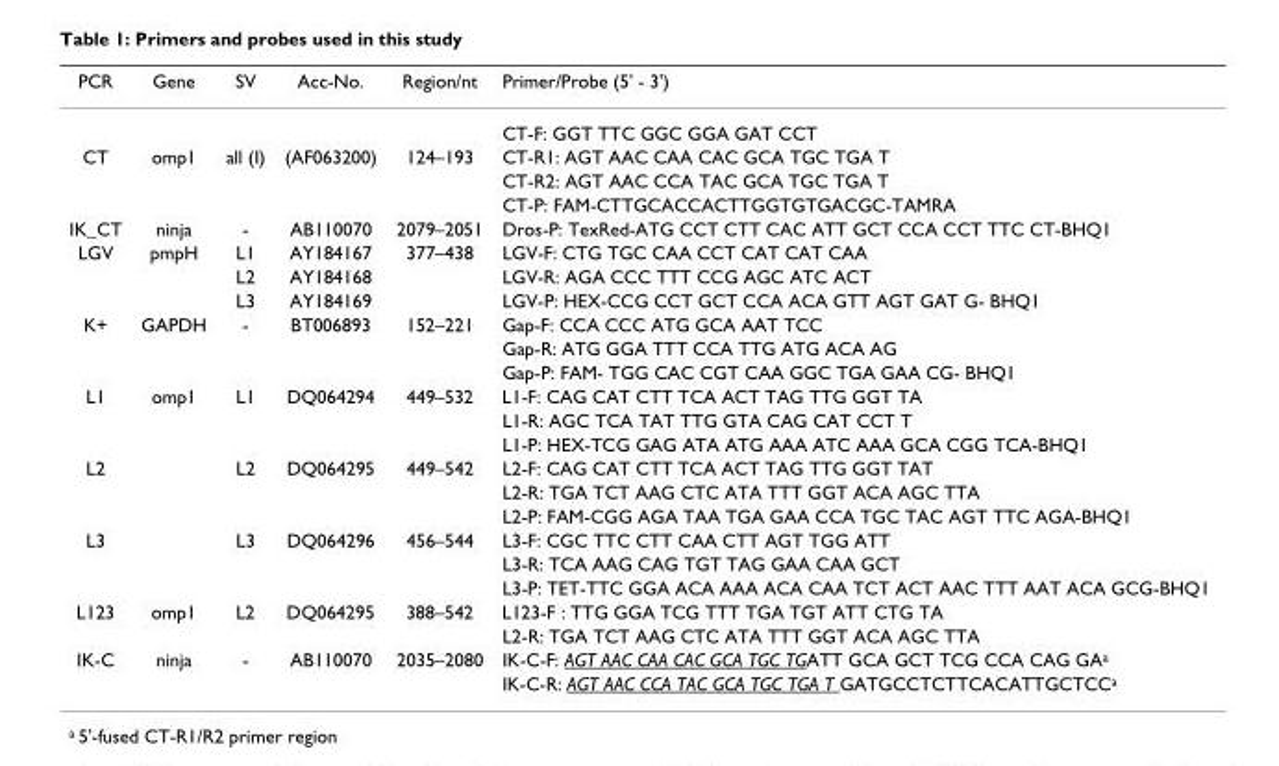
<table><thead><tr><td>PCR</td><td>Gene</td><td>SV</td><td>Acc-No.</td><td>Region/nt</td><td>Primer/Probe (5&#x27; - 3&#x27;)</td></tr></thead><tbody><tr><td></td><td></td><td></td><td></td><td></td><td>CT-F: GGT TTC GGC GGA GAT CCT</td></tr><tr><td rowspan="3">CT</td><td>omp1</td><td>all (I)</td><td>(AF063200)</td><td>124–193</td><td>CT-R1: AGT AAC CAA CAC GCA TGC TGA T</td></tr><tr><td></td><td></td><td></td><td></td><td>CT-R2: AGT AAC CCA TAC GCA TGC TGA T</td></tr><tr><td></td><td></td><td></td><td></td><td>CT-P: FAM-CTTGCACCACTTGGTGTGACGC-TAMRA</td></tr><tr><td>IK_CT</td><td>ninja</td><td>-</td><td>AB110070</td><td>2079–2051</td><td>Dros-P: TexRed-ATG CCT CTT CAC ATT GCT CCA CCT TTC CT-BHQ1</td></tr><tr><td rowspan="3">LGV</td><td>pmpH</td><td>L1</td><td>AY184167</td><td>377–438</td><td>LGV-F: CTG TGC CAA CCT CAT CAT CAA</td></tr><tr><td></td><td>L2</td><td>AY184168</td><td></td><td>LGV-R: AGA CCC TTT CCG AGC ATC ACT</td></tr><tr><td></td><td>L3</td><td>AY184169</td><td></td><td>LGV-P: HEX-CCG CCT GCT CCA ACA GTT AGT GAT G- BHQ1</td></tr><tr><td rowspan="3">K+</td><td>GAPDH</td><td>-</td><td>BT006893</td><td>152–221</td><td>Gap-F: CCA CCC ATG GCA AAT TCC</td></tr><tr><td></td><td></td><td></td><td></td><td>Gap-R: ATG GGA TTT CCA TTG ATG ACA AG</td></tr><tr><td></td><td></td><td></td><td></td><td>Gap-P: FAM- TGG CAC CGT CAA GGC TGA GAA CG- BHQ1</td></tr><tr><td rowspan="3">L1</td><td>omp1</td><td>L1</td><td>DQ064294</td><td>449–532</td><td>L1-F: CAG CAT CTT TCA ACT TAG TTG GGT TA</td></tr><tr><td></td><td></td><td></td><td></td><td>L1-R: AGC TCA TAT TTG GTA CAG CAT CCT T</td></tr><tr><td></td><td></td><td></td><td></td><td>L1-P: HEX-TCG GAG ATA ATG AAA ATC AAA GCA CGG TCA-BHQ1</td></tr><tr><td rowspan="3">L2</td><td></td><td>L2</td><td>DQ064295</td><td>449–542</td><td>L2-F: CAG CAT CTT TCA ACT TAG TTG GGT TAT</td></tr><tr><td></td><td></td><td></td><td></td><td>L2-R: TGA TCT AAG CTC ATA TTT GGT ACA AGC TTA</td></tr><tr><td></td><td></td><td></td><td></td><td>L2-P: FAM-CGG AGA TAA TGA GAA CCA TGC TAC AGT TTC AGA-BHQ1</td></tr><tr><td rowspan="3">L3</td><td></td><td>L3</td><td>DQ064296</td><td>456–544</td><td>L3-F: CGC TTC CTT CAA CTT AGT TGG ATT</td></tr><tr><td></td><td></td><td></td><td></td><td>L3-R: TCA AAG CAG TGT TAG GAA CAA GCT</td></tr><tr><td></td><td></td><td></td><td></td><td>L3-P: TET-TTC GGA ACA AAA ACA CAA TCT ACT AAC TTT AAT ACA GCG-BHQ1</td></tr><tr><td rowspan="2">L123</td><td>omp1</td><td>L2</td><td>DQ064295</td><td>388–542</td><td>L123-F : TTG GGA TCG TTT TGA TGT ATT CTG TA</td></tr><tr><td></td><td></td><td></td><td></td><td>L2-R: TGA TCT AAG CTC ATA TTT GGT ACA AGC TTA</td></tr><tr><td rowspan="2">IK-C</td><td>ninja</td><td>-</td><td>AB110070</td><td>2035–2080</td><td>IK-C-F: AGT AAC CAA CAC GCA TGC TGATT GCA GCT TCG CCA CAG GA<sup>a</sup></td></tr><tr><td></td><td></td><td></td><td></td><td>IK-C-R: AGT AAC CCA TAC GCA TGC TGA T GATGCCTCTTCACATTGCTCC<sup>a</sup></td></tr></tbody></table>